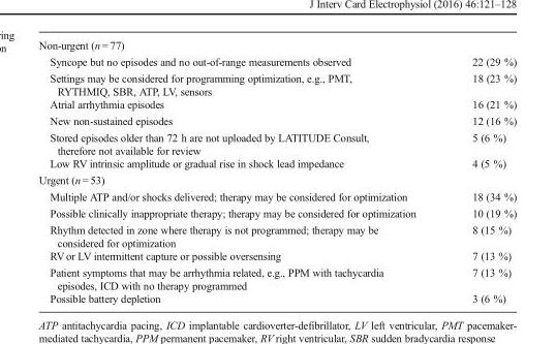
<table><tbody><tr><td colspan="2">Non-urgent (n = 77)</td></tr><tr><td>Syncope but no episodes and no out-of-range measurements observed</td><td>22 (29 %)</td></tr><tr><td>Settings may be considered for programming optimization, e.g., PMT, RYTHMIQ, SBR, ATP, LV, sensors</td><td>18 (23 %)</td></tr><tr><td>Atrial arrhythmia episodes</td><td>16 (21 %)</td></tr><tr><td>New non-sustained episodes</td><td>12 (16 %)</td></tr><tr><td>Stored episodes older than 72 h are not uploaded by LATITUDE Consult, therefore not available for review</td><td>5 (6 %)</td></tr><tr><td>Low RV intrinsic amplitude or gradual rise in shock lead impedance</td><td>4 (5 %)</td></tr><tr><td colspan="2">Urgent (n = 53)</td></tr><tr><td>Multiple ATP and/or shocks delivered; therapy may be considered for optimization</td><td>18 (34 %)</td></tr><tr><td>Possible clinically inappropriate therapy; therapy may be considered for optimization</td><td>10 (19 %)</td></tr><tr><td>Rhythm detected in zone where therapy is not programmed; therapy may be considered for optimization</td><td>8 (15 %)</td></tr><tr><td>RVor LV intermittent capture or possible oversensing</td><td>7 (13 %)</td></tr><tr><td>Patient symptoms that may be arrhythmia related, e.g., PPM with tachycardia episodes, ICD with no therapy programmed</td><td>7 (13 %)</td></tr><tr><td>Possible battery depletion</td><td>3 (6 %)</td></tr></tbody></table>